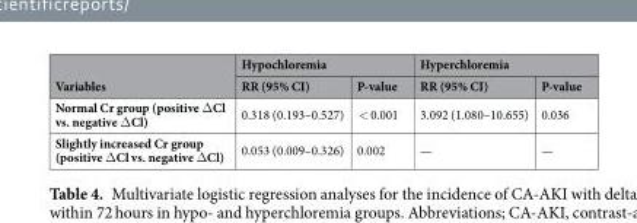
<table><thead><tr><td rowspan="2">Variables</td><td colspan="2">Hypochloremia</td><td colspan="2">Hyperchloremia</td></tr><tr><td>RR (95% CI)</td><td>P-value</td><td>RR (95% CI)</td><td>P-value</td></tr></thead><tbody><tr><td>Normal Cr group (positive ΔCl vs. negative ΔCl)</td><td>0.318 (0.193–0.527)</td><td>&lt; 0.001</td><td>3.092 (1.080–10.655)</td><td>0.036</td></tr><tr><td>Slightly increased Cr group (positive ΔCl vs. negative ΔCl)</td><td>0.053 (0.009–0.326)</td><td>0.002</td><td>—</td><td>—</td></tr></tbody></table>